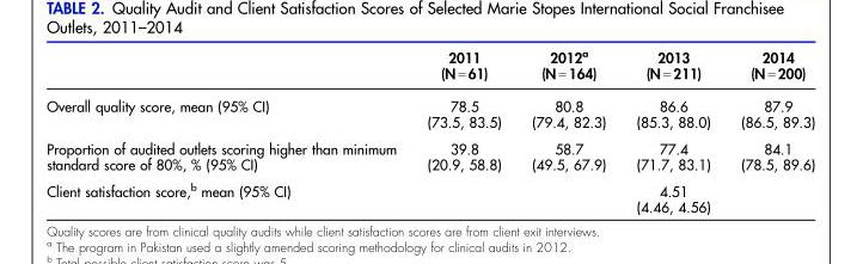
<table><thead><tr><td></td><td>2011 (N = 61)</td><td>2012<sup>a</sup> (N = 164)</td><td>2013 (N = 211)</td><td>2014 (N = 200)</td></tr></thead><tbody><tr><td>Overall quality score, mean (95% CI)</td><td>78.5 (73.5, 83.5)</td><td>80.8 (79.4, 82.3)</td><td>86.6 (85.3, 88.0)</td><td>87.9 (86.5, 89.3)</td></tr><tr><td>Proportion of audited outlets scoring higher than minimum standard score of 80%, % (95% CI)</td><td>39.8 (20.9, 58.8)</td><td>58.7 (49.5, 67.9)</td><td>77.4 (71.7, 83.1)</td><td>84.1 (78.5, 89.6)</td></tr><tr><td>Client satisfaction score,<sup>b</sup> mean (95% CI)</td><td></td><td></td><td>4.51 (4.46, 4.56)</td><td></td></tr></tbody></table>